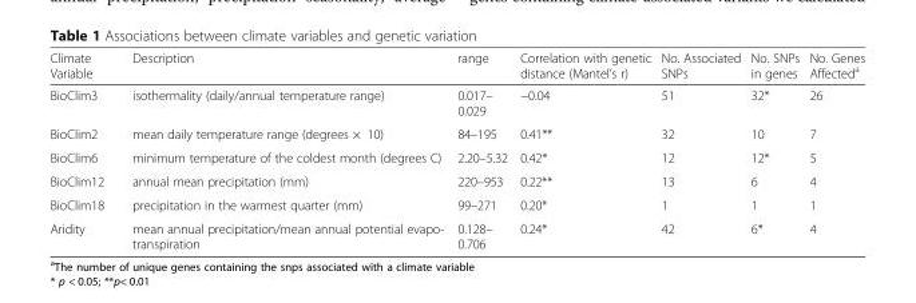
<table><thead><tr><td>Climate Variable</td><td>Description</td><td>range</td><td>Correlation with genetic distance (Mantel’s r)</td><td>No. Associated SNPs</td><td>No. SNPs in genes</td><td>No. Genes Affected<sup>a</sup></td></tr></thead><tbody><tr><td>BioClim3</td><td>isothermality (daily/annual temperature range)</td><td>0.017– 0.029</td><td>−0.04</td><td>51</td><td>32*</td><td>26</td></tr><tr><td>BioClim2</td><td>mean daily temperature range (degrees × 10)</td><td>84–195</td><td>0.41**</td><td>32</td><td>10</td><td>7</td></tr><tr><td>BioClim6</td><td>minimum temperature of the coldest month (degrees C)</td><td>2.20–5.32</td><td>0.42*</td><td>12</td><td>12*</td><td>5</td></tr><tr><td>BioClim12</td><td>annual mean precipitation (mm)</td><td>220–953</td><td>0.22**</td><td>13</td><td>6</td><td>4</td></tr><tr><td>BioClim18</td><td>precipitation in the warmest quarter (mm)</td><td>99–271</td><td>0.20*</td><td>1</td><td>1</td><td>1</td></tr><tr><td>Aridity</td><td>mean annual precipitation/mean annual potential evapo- transpiration</td><td>0.128– 0.706</td><td>0.24*</td><td>42</td><td>6*</td><td>4</td></tr></tbody></table>